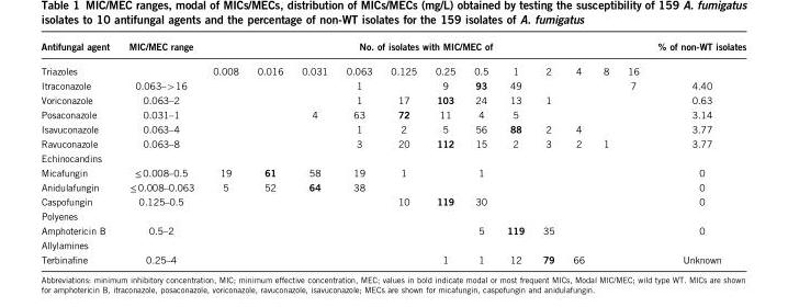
<table><thead><tr><td rowspan="2">Antifungal agent Triazoles</td><td rowspan="2">MIC/MEC range</td><td colspan="12">No. of isolates with MIC/MEC of</td><td rowspan="2">% of non-WT isolates</td></tr><tr><td>0.008</td><td>0.016</td><td>0.031</td><td>0.063</td><td>0.125</td><td>0.25</td><td>0.5</td><td>1</td><td>2</td><td>4</td><td>8</td><td>16</td></tr></thead><tbody><tr><td>Itraconazole</td><td>0.063–&gt;16</td><td></td><td></td><td></td><td>1</td><td></td><td>9</td><td>93</td><td>49</td><td></td><td></td><td></td><td>7</td><td>4.40</td></tr><tr><td>Voriconazole</td><td>0.063–2</td><td></td><td></td><td></td><td>1</td><td>17</td><td>103</td><td>24</td><td>13</td><td>1</td><td></td><td></td><td></td><td>0.63</td></tr><tr><td>Posaconazole</td><td>0.031–1</td><td></td><td></td><td>4</td><td>63</td><td>72</td><td>11</td><td>4</td><td>5</td><td></td><td></td><td></td><td></td><td>3.14</td></tr><tr><td>Isavuconazole</td><td>0.063–4</td><td></td><td></td><td></td><td>1</td><td>2</td><td>5</td><td>56</td><td>88</td><td>2</td><td>4</td><td></td><td></td><td>3.77</td></tr><tr><td>Ravuconazole</td><td>0.063–8</td><td></td><td></td><td></td><td>3</td><td>20</td><td>112</td><td>15</td><td>2</td><td>3</td><td>2</td><td>1</td><td></td><td>3.77</td></tr><tr><td colspan="15">Echinocandins</td></tr><tr><td>Micafungin</td><td>≤ 0.008–0.5</td><td>19</td><td>61</td><td>58</td><td>19</td><td>1</td><td></td><td>1</td><td></td><td></td><td></td><td></td><td></td><td>0</td></tr><tr><td>Anidulafungin</td><td>≤ 0.008–0.063</td><td>5</td><td>52</td><td>64</td><td>38</td><td></td><td></td><td></td><td></td><td></td><td></td><td></td><td></td><td>0</td></tr><tr><td>Caspofungin</td><td>0.125–0.5</td><td></td><td></td><td></td><td></td><td>10</td><td>119</td><td>30</td><td></td><td></td><td></td><td></td><td></td><td>0</td></tr><tr><td colspan="15">Polyenes</td></tr><tr><td>Amphotericin B</td><td>0.5–2</td><td></td><td></td><td></td><td></td><td></td><td></td><td>5</td><td>119</td><td>35</td><td></td><td></td><td></td><td>0</td></tr><tr><td colspan="15">Allylamines</td></tr><tr><td>Terbinafine</td><td>0.25–4</td><td></td><td></td><td></td><td></td><td></td><td>1</td><td>1</td><td>12</td><td>79</td><td>66</td><td></td><td></td><td>Unknown</td></tr></tbody></table>